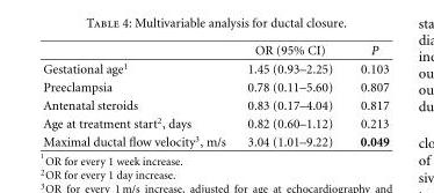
<table><thead><tr><td></td><td>OR (95% CI)</td><td>P</td></tr></thead><tbody><tr><td>Gestational age<sup>1</sup></td><td>1.45 (0.93–2.25)</td><td>0.103</td></tr><tr><td>Preeclampsia</td><td>0.78 (0.11–5.60)</td><td>0.807</td></tr><tr><td>Antenatal steroids</td><td>0.83 (0.17–4.04)</td><td>0.817</td></tr><tr><td>Age at treatment start<sup>2</sup>, days</td><td>0.82 (0.60–1.12)</td><td>0.213</td></tr><tr><td>Maximal ductal flow velocity<sup>3</sup>, m/s</td><td>3.04 (1.01–9.22)</td><td>0.049</td></tr></tbody></table>